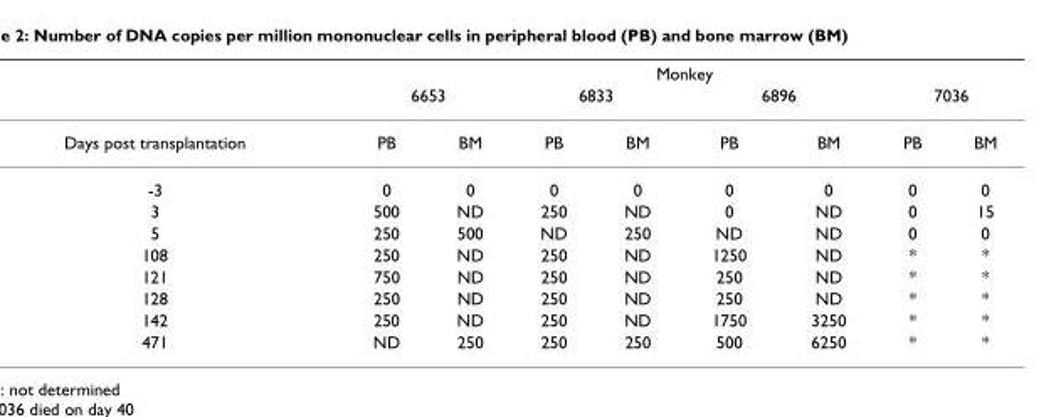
<table><thead><tr><td rowspan="3">Days post transplantation</td><td colspan="8">Monkey</td></tr><tr><td colspan="2">6653</td><td colspan="2">6833</td><td colspan="2">6896</td><td colspan="2">7036</td></tr><tr><td>PB</td><td>BM</td><td>PB</td><td>BM</td><td>PB</td><td>BM</td><td>PB</td><td>BM</td></tr></thead><tbody><tr><td>-3</td><td>0</td><td>0</td><td>0</td><td>0</td><td>0</td><td>0</td><td>0</td><td>0</td></tr><tr><td>3</td><td>500</td><td>ND</td><td>250</td><td>ND</td><td>0</td><td>ND</td><td>0</td><td>15</td></tr><tr><td>5</td><td>250</td><td>500</td><td>ND</td><td>250</td><td>ND</td><td>ND</td><td>0</td><td>0</td></tr><tr><td>108</td><td>250</td><td>ND</td><td>250</td><td>ND</td><td>1250</td><td>ND</td><td>*</td><td>*</td></tr><tr><td>121</td><td>750</td><td>ND</td><td>250</td><td>ND</td><td>250</td><td>ND</td><td>*</td><td>*</td></tr><tr><td>128</td><td>250</td><td>ND</td><td>250</td><td>ND</td><td>250</td><td>ND</td><td>*</td><td>*</td></tr><tr><td>142</td><td>250</td><td>ND</td><td>250</td><td>ND</td><td>1750</td><td>3250</td><td>*</td><td>*</td></tr><tr><td>471</td><td>ND</td><td>250</td><td>250</td><td>250</td><td>500</td><td>6250</td><td>*</td><td>*</td></tr></tbody></table>